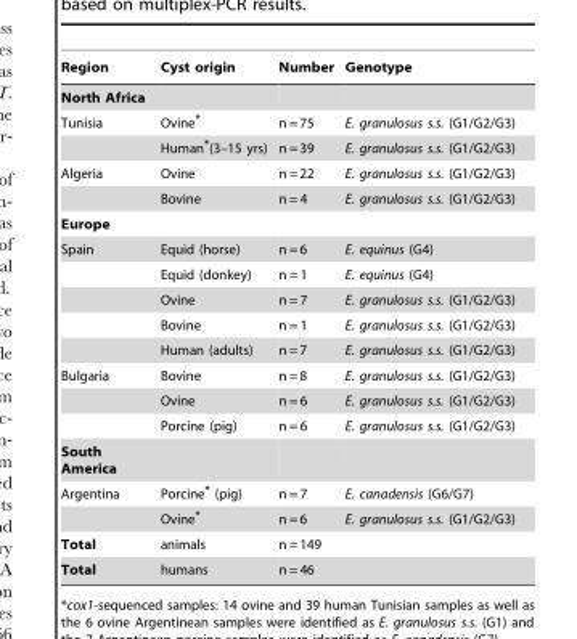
<table><thead><tr><td>Region</td><td>Cyst origin</td><td>Number</td><td>Genotype</td></tr></thead><tbody><tr><td colspan="4">North Africa</td></tr><tr><td rowspan="2">Tunisia</td><td>Ovine*</td><td>n = 75</td><td>E. granulosus s.s. (G1/G2/G3)</td></tr><tr><td>Human*(3–15 yrs)</td><td>n = 39</td><td>E. granulosus s.s. (G1/G2/G3)</td></tr><tr><td rowspan="2">Algeria</td><td>Ovine</td><td>n = 22</td><td>E. granulosus s.s. (G1/G2/G3)</td></tr><tr><td>Bovine</td><td>n = 4</td><td>E. granulosus s.s. (G1/G2/G3)</td></tr><tr><td colspan="4">Europe</td></tr><tr><td rowspan="5">Spain</td><td>Equid (horse)</td><td>n = 6</td><td>E. equinus (G4)</td></tr><tr><td>Equid (donkey)</td><td>n = 1</td><td>E. equinus (G4)</td></tr><tr><td>Ovine</td><td>n = 7</td><td>E. granulosus s.s. (G1/G2/G3)</td></tr><tr><td>Bovine</td><td>n = 1</td><td>E. granulosus s.s. (G1/G2/G3)</td></tr><tr><td>Human (adults)</td><td>n = 7</td><td>E. granulosus s.s. (G1/G2/G3)</td></tr><tr><td rowspan="3">Bulgaria</td><td>Bovine</td><td>n = 8</td><td>E. granulosus s.s. (G1/G2/G3)</td></tr><tr><td>Ovine</td><td>n = 6</td><td>E. granulosus s.s. (G1/G2/G3)</td></tr><tr><td>Porcine (pig)</td><td>n = 6</td><td>E. granulosus s.s. (G1/G2/G3)</td></tr><tr><td colspan="4">South America</td></tr><tr><td rowspan="2">Argentina</td><td>Porcine* (pig)</td><td>n = 7</td><td>E. canadensis (G6/G7)</td></tr><tr><td>Ovine*</td><td>n = 6</td><td>E. granulosus s.s. (G1/G2/G3)</td></tr><tr><td>Total</td><td>animals</td><td>n = 149</td><td></td></tr><tr><td>Total</td><td>humans</td><td>n = 46</td><td></td></tr></tbody></table>